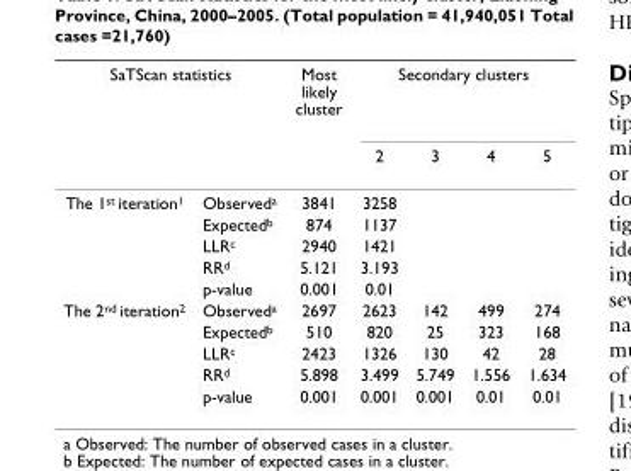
<table><thead><tr><td colspan="2">SaTScan statistics</td><td rowspan="2">Most likely cluster</td><td colspan="4">Secondary clusters</td></tr><tr><td></td><td></td><td>2</td><td>3</td><td>4</td><td>5</td></tr></thead><tbody><tr><td rowspan="5">The 1<sup>st</sup> iteration<sup>1</sup></td><td>Observed<sup>a</sup></td><td>3841</td><td>3258</td><td></td><td></td><td></td></tr><tr><td>Expected<sup>b</sup></td><td>874</td><td>1137</td><td></td><td></td><td></td></tr><tr><td>LLR<sup>c</sup></td><td>2940</td><td>1421</td><td></td><td></td><td></td></tr><tr><td>RR<sup>d</sup></td><td>5.121</td><td>3.193</td><td></td><td></td><td></td></tr><tr><td>p-value</td><td>0.001</td><td>0.01</td><td></td><td></td><td></td></tr><tr><td rowspan="5">The 2<sup>nd</sup> iteration<sup>2</sup></td><td>Observed<sup>a</sup></td><td>2697</td><td>2623</td><td>142</td><td>499</td><td>274</td></tr><tr><td>Expected<sup>b</sup></td><td>510</td><td>820</td><td>25</td><td>323</td><td>168</td></tr><tr><td>LLR<sup>c</sup></td><td>2423</td><td>1326</td><td>130</td><td>42</td><td>28</td></tr><tr><td>RR<sup>d</sup></td><td>5.898</td><td>3.499</td><td>5.749</td><td>1.556</td><td>1.634</td></tr><tr><td>p-value</td><td>0.001</td><td>0.001</td><td>0.001</td><td>0.01</td><td>0.01</td></tr></tbody></table>